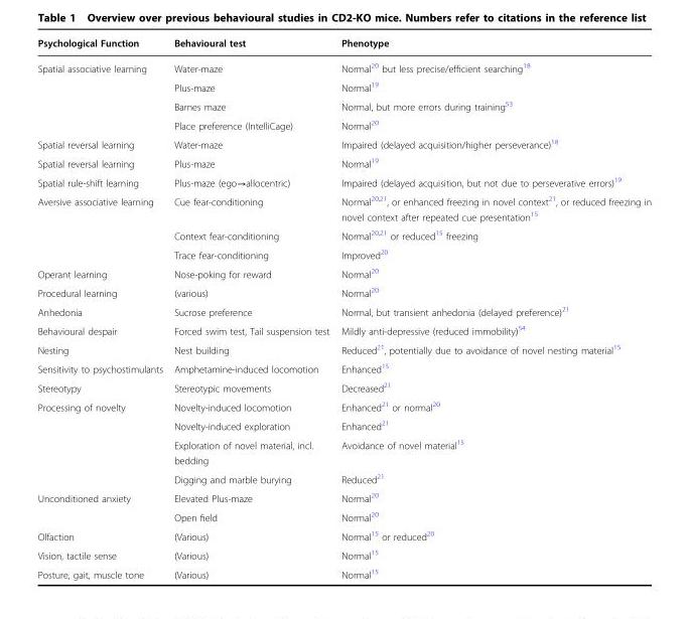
<table><thead><tr><td>Psychological Function</td><td>Behavioural test</td><td>Phenotype</td></tr></thead><tbody><tr><td rowspan="4">Spatial associative learning</td><td>Water-maze</td><td>Normal<sup>20</sup> but less precise/efficient searching<sup>18</sup></td></tr><tr><td>Plus-maze</td><td>Normal<sup>19</sup></td></tr><tr><td>Barnes maze</td><td>Normal, but more errors during training<sup>53</sup></td></tr><tr><td>Place preference (IntelliCage)</td><td>Normal<sup>20</sup></td></tr><tr><td>Spatial reversal learning</td><td>Water-maze</td><td>Impaired (delayed acquisition/higher perseverance)<sup>18</sup></td></tr><tr><td>Spatial reversal learning</td><td>Plus-maze</td><td>Normal<sup>19</sup></td></tr><tr><td>Spatial rule-shift learning</td><td>Plus-maze (ego→allocentric)</td><td>Impaired (delayed acquisition, but not due to perseverative errors)<sup>19</sup></td></tr><tr><td rowspan="3">Aversive associative learning</td><td>Cue fear-conditioning</td><td>Normal<sup>20,21</sup>, or enhanced freezing in novel context<sup>21</sup>, or reduced freezing in novel context after repeated cue presentation<sup>15</sup></td></tr><tr><td>Context fear-conditioning</td><td>Normal<sup>20,21</sup> or reduced<sup>15</sup> freezing</td></tr><tr><td>Trace fear-conditioning</td><td>Improved<sup>20</sup></td></tr><tr><td>Operant learning</td><td>Nose-poking for reward</td><td>Normal<sup>20</sup></td></tr><tr><td>Procedural learning</td><td>(various)</td><td>Normal<sup>20</sup></td></tr><tr><td>Anhedonia</td><td>Sucrose preference</td><td>Normal, but transient anhedonia (delayed preference)<sup>21</sup></td></tr><tr><td>Behavioural despair</td><td>Forced swim test, Tail suspension test</td><td>Mildly anti-depressive (reduced immobility)<sup>54</sup></td></tr><tr><td>Nesting</td><td>Nest building</td><td>Reduced<sup>21</sup>, potentially due to avoidance of novel nesting material<sup>15</sup></td></tr><tr><td>Sensitivity to psychostimulants</td><td>Amphetamine-induced locomotion</td><td>Enhanced<sup>15</sup></td></tr><tr><td>Stereotypy</td><td>Stereotypic movements</td><td>Decreased<sup>21</sup></td></tr><tr><td rowspan="4">Processing of novelty</td><td>Novelty-induced locomotion</td><td>Enhanced<sup>21</sup> or normal<sup>20</sup></td></tr><tr><td>Novelty-induced exploration</td><td>Enhanced<sup>21</sup></td></tr><tr><td>Exploration of novel material, incl. bedding</td><td>Avoidance of novel material<sup>15</sup></td></tr><tr><td>Digging and marble burying</td><td>Reduced<sup>21</sup></td></tr><tr><td rowspan="2">Unconditioned anxiety</td><td>Elevated Plus-maze</td><td>Normal<sup>20</sup></td></tr><tr><td>Open field</td><td>Normal<sup>20</sup></td></tr><tr><td>Olfaction</td><td>(Various)</td><td>Normal<sup>15</sup> or reduced<sup>20</sup></td></tr><tr><td>Vision, tactile sense</td><td>(Various)</td><td>Normal<sup>15</sup></td></tr><tr><td>Posture, gait, muscle tone</td><td>(Various)</td><td>Normal<sup>15</sup></td></tr></tbody></table>